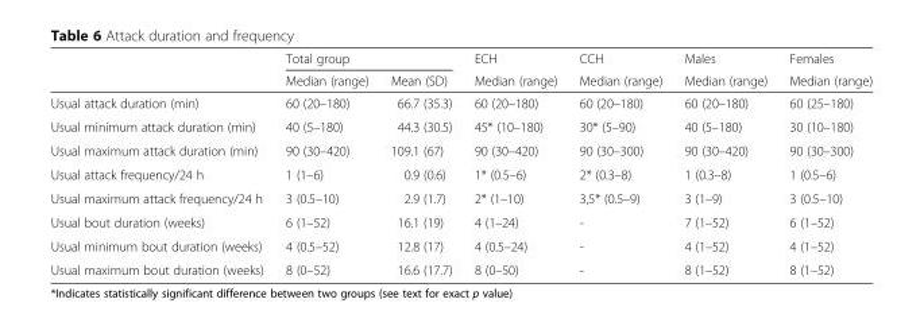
<table><thead><tr><td rowspan="2"></td><td colspan="2">Total group</td><td rowspan="2">ECH Median (range)</td><td rowspan="2">CCH Median (range)</td><td rowspan="2">Males Median (range)</td><td rowspan="2">Females Median (range)</td></tr><tr><td>Median (range)</td><td>Mean (SD)</td></tr></thead><tbody><tr><td>Usual attack duration (min)</td><td>60 (20–180)</td><td>66.7 (35.3)</td><td>60 (20–180)</td><td>60 (20–180)</td><td>60 (20–180)</td><td>60 (25–180)</td></tr><tr><td>Usual minimum attack duration (min)</td><td>40 (5–180)</td><td>44.3 (30.5)</td><td>45* (10–180)</td><td>30* (5–90)</td><td>40 (5–180)</td><td>30 (10–180)</td></tr><tr><td>Usual maximum attack duration (min)</td><td>90 (30–420)</td><td>109.1 (67)</td><td>90 (30–420)</td><td>90 (30–300)</td><td>90 (30–420)</td><td>90 (30–300)</td></tr><tr><td>Usual attack frequency/24 h</td><td>1 (1–6)</td><td>0.9 (0.6)</td><td>1* (0.5–6)</td><td>2* (0.3–8)</td><td>1 (0.3–8)</td><td>1 (0.5–6)</td></tr><tr><td>Usual maximum attack frequency/24 h</td><td>3 (0.5–10)</td><td>2.9 (1.7)</td><td>2* (1–10)</td><td>3,5* (0.5–9)</td><td>3 (1–9)</td><td>3 (0.5–10)</td></tr><tr><td>Usual bout duration (weeks)</td><td>6 (1–52)</td><td>16.1 (19)</td><td>4 (1–24)</td><td>-</td><td>7 (1–52)</td><td>6 (1–52)</td></tr><tr><td>Usual minimum bout duration (weeks)</td><td>4 (0.5–52)</td><td>12.8 (17)</td><td>4 (0.5–24)</td><td>-</td><td>4 (1–52)</td><td>4 (1–52)</td></tr><tr><td>Usual maximum bout duration (weeks)</td><td>8 (0–52)</td><td>16.6 (17.7)</td><td>8 (0–50)</td><td>-</td><td>8 (1–52)</td><td>8 (1–52)</td></tr></tbody></table>